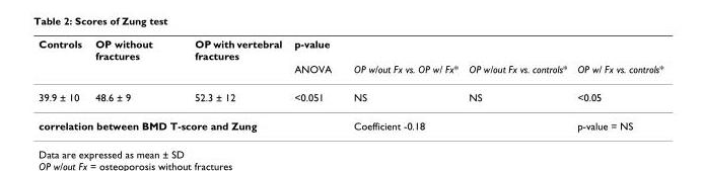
<table><thead><tr><td rowspan="2">Controls</td><td rowspan="2">OP without fractures</td><td rowspan="2">OP with vertebral fractures</td><td rowspan="2">p-value ANOVA</td><td rowspan="2">OP w/out Fx vs. OP w/ Fx*</td><td rowspan="2">OP w/out Fx vs. controls*</td><td rowspan="2">OP w/ Fx vs. controls*</td></tr><tr></tr></thead><tbody><tr><td>39.9 ± 10</td><td>48.6 ± 9</td><td>52.3 ± 12</td><td>&lt;0.051</td><td>NS</td><td>NS</td><td>&lt;0.05</td></tr><tr><td colspan="4">correlation between BMD T-score and Zung</td><td>Coefficient -0.18</td><td></td><td>p-value = NS</td></tr></tbody></table>